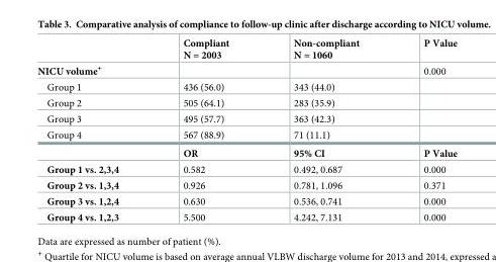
<table><thead><tr><td></td><td>Compliant N = 2003</td><td>Non-compliant N = 1060</td><td>P Value</td></tr></thead><tbody><tr><td>NICU volume<sup>+</sup></td><td></td><td></td><td>0.000</td></tr><tr><td>Group 1</td><td>436 (56.0)</td><td>343 (44.0)</td><td></td></tr><tr><td>Group 2</td><td>505 (64.1)</td><td>283 (35.9)</td><td></td></tr><tr><td>Group 3</td><td>495 (57.7)</td><td>363 (42.3)</td><td></td></tr><tr><td rowspan="2">Group 4</td><td>567 (88.9)</td><td>71 (11.1)</td><td></td></tr><tr><td>OR</td><td>95% CI</td><td>P Value</td></tr><tr><td>Group 1 vs. 2,3,4</td><td>0.582</td><td>0.492, 0.687</td><td>0.000</td></tr><tr><td>Group 2 vs. 1,3,4</td><td>0.926</td><td>0.781, 1.096</td><td>0.371</td></tr><tr><td>Group 3 vs. 1,2,4</td><td>0.630</td><td>0.536, 0.741</td><td>0.000</td></tr><tr><td>Group 4 vs. 1,2,3</td><td>5.500</td><td>4.242, 7.131</td><td>0.000</td></tr></tbody></table>